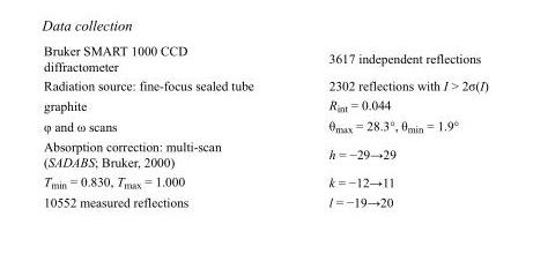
<table><tbody><tr><td>Bruker SMART 1000 CCD diffractometer</td><td>3617 independent reflections</td></tr><tr><td>Radiation source: fine-focus sealed tube</td><td>2302 reflections with I &gt; 2σ(I)</td></tr><tr><td>graphite</td><td>R<sub>int</sub> = 0.044</td></tr><tr><td>φ and ω scans</td><td>θ<sub>max</sub> = 28.3°, θ<sub>min</sub> = 1.9°</td></tr><tr><td>Absorption correction: multi-scan (SADABS; Bruker, 2000)</td><td>h = −29→29</td></tr><tr><td>T<sub>min</sub> = 0.830, T<sub>max</sub> = 1.000</td><td>k = −12→11</td></tr><tr><td>10552 measured reflections</td><td>l = −19→20</td></tr></tbody></table>